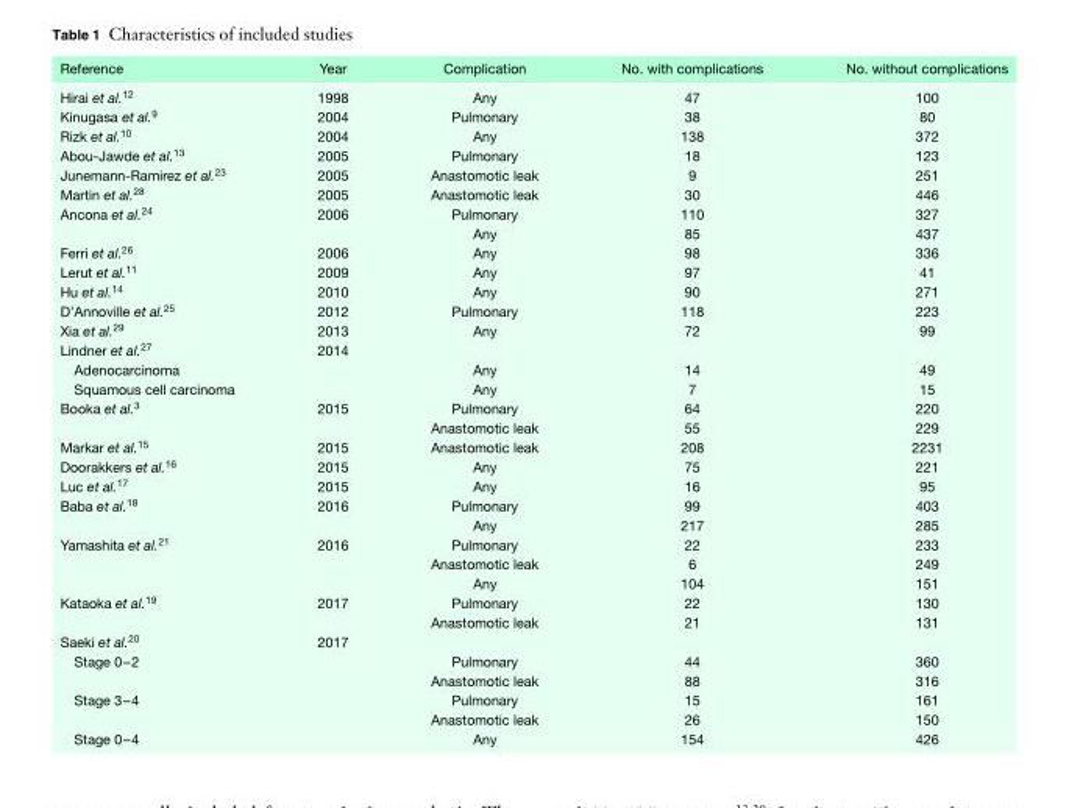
<table><thead><tr><td>Reference</td><td>Year</td><td>Complication</td><td>No. with complications</td><td>No. without complications</td></tr></thead><tbody><tr><td>Hirai et al.12</td><td>1998</td><td>Any</td><td>47</td><td>100</td></tr><tr><td>Kinugasa et al.9</td><td>2004</td><td>Pulmonary</td><td>38</td><td>80</td></tr><tr><td>Rizk et al.10</td><td>2004</td><td>Any</td><td>138</td><td>372</td></tr><tr><td>Abou-Jawde et al.13</td><td>2005</td><td>Pulmonary</td><td>18</td><td>123</td></tr><tr><td>Junemann-Ramirez et al.23</td><td>2005</td><td>Anastomotic leak</td><td>9</td><td>251</td></tr><tr><td>Martin et al.28</td><td>2005</td><td>Anastomotic leak</td><td>30</td><td>446</td></tr><tr><td rowspan="2">Ancona et al.24</td><td>2006</td><td>Pulmonary</td><td>110</td><td>327</td></tr><tr><td></td><td>Any</td><td>85</td><td>437</td></tr><tr><td>Ferri et al.26</td><td>2006</td><td>Any</td><td>98</td><td>336</td></tr><tr><td>Lerut et al.11</td><td>2009</td><td>Any</td><td>97</td><td>41</td></tr><tr><td>Hu et al.14</td><td>2010</td><td>Any</td><td>90</td><td>271</td></tr><tr><td>D’Annoville et al.25</td><td>2012</td><td>Pulmonary</td><td>118</td><td>223</td></tr><tr><td>Xia et al.29</td><td>2013</td><td>Any</td><td>72</td><td>99</td></tr><tr><td>Lindner et al.27</td><td>2014</td><td></td><td></td><td></td></tr><tr><td>Adenocarcinoma</td><td></td><td>Any</td><td>14</td><td>49</td></tr><tr><td>Squamous cell carcinoma</td><td></td><td>Any</td><td>7</td><td>15</td></tr><tr><td rowspan="2">Booka et al.3</td><td>2015</td><td>Pulmonary</td><td>64</td><td>220</td></tr><tr><td></td><td>Anastomotic leak</td><td>55</td><td>229</td></tr><tr><td>Markar et al.15</td><td>2015</td><td>Anastomotic leak</td><td>208</td><td>2231</td></tr><tr><td>Doorakkers et al.16</td><td>2015</td><td>Any</td><td>75</td><td>221</td></tr><tr><td>Luc et al.17</td><td>2015</td><td>Any</td><td>16</td><td>95</td></tr><tr><td rowspan="2">Baba et al.18</td><td>2016</td><td>Pulmonary</td><td>99</td><td>403</td></tr><tr><td></td><td>Any</td><td>217</td><td>285</td></tr><tr><td rowspan="3">Yamashita et al.21</td><td>2016</td><td>Pulmonary</td><td>22</td><td>233</td></tr><tr><td></td><td>Anastomotic leak</td><td>6</td><td>249</td></tr><tr><td></td><td>Any</td><td>104</td><td>151</td></tr><tr><td rowspan="2">Kataoka et al.19</td><td>2017</td><td>Pulmonary</td><td>22</td><td>130</td></tr><tr><td></td><td>Anastomotic leak</td><td>21</td><td>131</td></tr><tr><td>Saeki et al.20</td><td>2017</td><td></td><td></td><td></td></tr><tr><td rowspan="2">Stage 0–2</td><td></td><td>Pulmonary</td><td>44</td><td>360</td></tr><tr><td></td><td>Anastomotic leak</td><td>88</td><td>316</td></tr><tr><td rowspan="2">Stage 3–4</td><td></td><td>Pulmonary</td><td>15</td><td>161</td></tr><tr><td></td><td>Anastomotic leak</td><td>26</td><td>150</td></tr><tr><td>Stage 0–4</td><td></td><td>Any</td><td>154</td><td>426</td></tr></tbody></table>